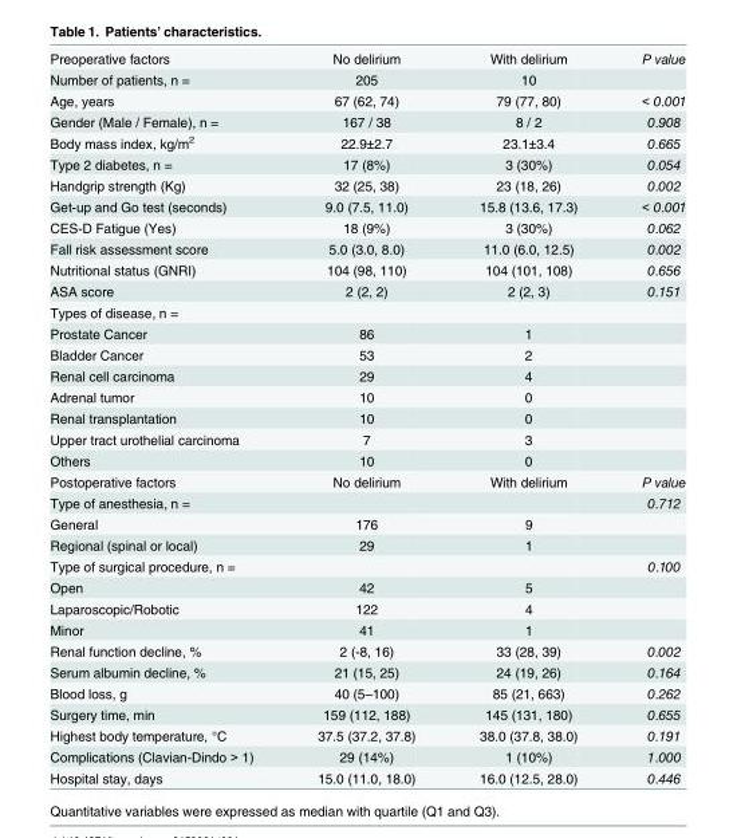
<table><tbody><tr><td>Preoperative factors</td><td>No delirium</td><td>With delirium</td><td>P value</td></tr><tr><td>Number of patients, n =</td><td>205</td><td>10</td><td></td></tr><tr><td>Age, years</td><td>67 (62, 74)</td><td>79 (77, 80)</td><td>&lt; 0.001</td></tr><tr><td>Gender (Male / Female), n =</td><td>167 / 38</td><td>8 / 2</td><td>0.908</td></tr><tr><td>Body mass index, kg/m<sup>2</sup></td><td>22.9±2.7</td><td>23.1±3.4</td><td>0.665</td></tr><tr><td>Type 2 diabetes, n =</td><td>17 (8%)</td><td>3 (30%)</td><td>0.054</td></tr><tr><td>Handgrip strength (Kg)</td><td>32 (25, 38)</td><td>23 (18, 26)</td><td>0.002</td></tr><tr><td>Get-up and Go test (seconds)</td><td>9.0 (7.5, 11.0)</td><td>15.8 (13.6, 17.3)</td><td>&lt; 0.001</td></tr><tr><td>CES-D Fatigue (Yes)</td><td>18 (9%)</td><td>3 (30%)</td><td>0.062</td></tr><tr><td>Fall risk assessment score</td><td>5.0 (3.0, 8.0)</td><td>11.0 (6.0, 12.5)</td><td>0.002</td></tr><tr><td>Nutritional status (GNRI)</td><td>104 (98, 110)</td><td>104 (101, 108)</td><td>0.656</td></tr><tr><td>ASA score</td><td>2 (2, 2)</td><td>2 (2, 3)</td><td>0.151</td></tr><tr><td colspan="4">Types of disease, n =</td></tr><tr><td>Prostate Cancer</td><td>86</td><td>1</td><td></td></tr><tr><td>Bladder Cancer</td><td>53</td><td>2</td><td></td></tr><tr><td>Renal cell carcinoma</td><td>29</td><td>4</td><td></td></tr><tr><td>Adrenal tumor</td><td>10</td><td>0</td><td></td></tr><tr><td>Renal transplantation</td><td>10</td><td>0</td><td></td></tr><tr><td>Upper tract urothelial carcinoma</td><td>7</td><td>3</td><td></td></tr><tr><td>Others</td><td>10</td><td>0</td><td></td></tr><tr><td>Postoperative factors</td><td>No delirium</td><td>With delirium</td><td>P value</td></tr><tr><td>Type of anesthesia, n =</td><td></td><td></td><td>0.712</td></tr><tr><td>General</td><td>176</td><td>9</td><td></td></tr><tr><td>Regional (spinal or local)</td><td>29</td><td>1</td><td></td></tr><tr><td>Type of surgical procedure, n =</td><td></td><td></td><td>0.100</td></tr><tr><td>Open</td><td>42</td><td>5</td><td></td></tr><tr><td>Laparoscopic/Robotic</td><td>122</td><td>4</td><td></td></tr><tr><td>Minor</td><td>41</td><td>1</td><td></td></tr><tr><td>Renal function decline, %</td><td>2 (-8, 16)</td><td>33 (28, 39)</td><td>0.002</td></tr><tr><td>Serum albumin decline, %</td><td>21 (15, 25)</td><td>24 (19, 26)</td><td>0.164</td></tr><tr><td>Blood loss, g</td><td>40 (5–100)</td><td>85 (21, 663)</td><td>0.262</td></tr><tr><td>Surgery time, min</td><td>159 (112, 188)</td><td>145 (131, 180)</td><td>0.655</td></tr><tr><td>Highest body temperature, °C</td><td>37.5 (37.2, 37.8)</td><td>38.0 (37.8, 38.0)</td><td>0.191</td></tr><tr><td>Complications (Clavian-Dindo &gt; 1)</td><td>29 (14%)</td><td>1 (10%)</td><td>1.000</td></tr><tr><td>Hospital stay, days</td><td>15.0 (11.0, 18.0)</td><td>16.0 (12.5, 28.0)</td><td>0.446</td></tr></tbody></table>